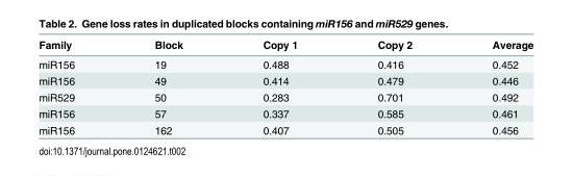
<table><thead><tr><td>Family</td><td>Block</td><td>Copy 1</td><td>Copy 2</td><td>Average</td></tr></thead><tbody><tr><td>miR156</td><td>19</td><td>0.488</td><td>0.416</td><td>0.452</td></tr><tr><td>miR156</td><td>49</td><td>0.414</td><td>0.479</td><td>0.446</td></tr><tr><td>miR529</td><td>50</td><td>0.283</td><td>0.701</td><td>0.492</td></tr><tr><td>miR156</td><td>57</td><td>0.337</td><td>0.585</td><td>0.461</td></tr><tr><td>miR156</td><td>162</td><td>0.407</td><td>0.505</td><td>0.456</td></tr></tbody></table>